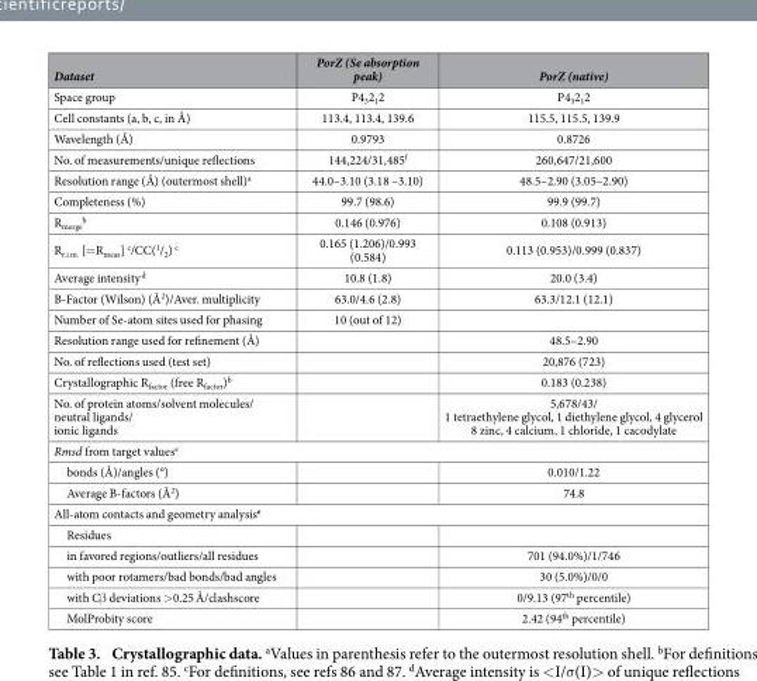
<table><thead><tr><td>Dataset</td><td>PorZ (Se absorption peak)</td><td>PorZ (native)</td></tr></thead><tbody><tr><td>Space group</td><td>P4<sub>3</sub>2<sub>1</sub>2</td><td>P4<sub>3</sub>2<sub>1</sub>2</td></tr><tr><td>Cell constants (a, b, c, in Å)</td><td>113.4, 113.4, 139.6</td><td>115.5, 115.5, 139.9</td></tr><tr><td>Wavelength (Å)</td><td>0.9793</td><td>0.8726</td></tr><tr><td>No. of measurements/unique reflections</td><td>144,224/31,485<sup>f</sup></td><td>260,647/21,600</td></tr><tr><td>Resolution range (Å) (outermost shell)<sup>a</sup></td><td>44.0–3.10 (3.18 –3.10)</td><td>48.5–2.90 (3.05–2.90)</td></tr><tr><td>Completeness (%)</td><td>99.7 (98.6)</td><td>99.9 (99.7)</td></tr><tr><td>R<sub>merge</sub> <sup>b</sup></td><td>0.146 (0.976)</td><td>0.108 (0.913)</td></tr><tr><td>R<sub>r.i.m.</sub> [= R<sub>meas</sub>] c/CC(<sup>1</sup>/<sub>2</sub>) c</td><td>0.165 (1.206)/0.993 (0.584)</td><td>0.113 (0.953)/0.999 (0.837)</td></tr><tr><td>Average intensity d</td><td>10.8 (1.8)</td><td>20.0 (3.4)</td></tr><tr><td>B-Factor (Wilson) (Å<sup>2</sup>)/Aver. multiplicity</td><td>63.0/4.6 (2.8)</td><td>63.3/12.1 (12.1)</td></tr><tr><td>Number of Se-atom sites used for phasing</td><td>10 (out of 12)</td><td></td></tr><tr><td>Resolution range used for refinement (Å)</td><td></td><td>48.5–2.90</td></tr><tr><td>No. of reflections used (test set)</td><td></td><td>20,876 (723)</td></tr><tr><td>Crystallographic R<sub>factor</sub> (free R<sub>factor</sub>)<sup>b</sup></td><td></td><td>0.183 (0.238)</td></tr><tr><td>No. of protein atoms/solvent molecules/ neutral ligands/ ionic ligands</td><td></td><td>5,678/43/ 1 tetraethylene glycol, 1 diethylene glycol, 4 glycerol 8 zinc, 4 calcium, 1 chloride, 1 cacodylate</td></tr><tr><td colspan="3">Rmsd from target values<sup>e</sup></td></tr><tr><td>bonds (Å)/angles (°)</td><td></td><td>0.010/1.22</td></tr><tr><td>Average B-factors (Å<sup>2</sup>)</td><td></td><td>74.8</td></tr><tr><td colspan="3">All-atom contacts and geometry analysis<sup>e</sup></td></tr><tr><td colspan="3">Residues</td></tr><tr><td>in favored regions/outliers/all residues</td><td></td><td>701 (94.0%)/1/746</td></tr><tr><td>with poor rotamers/bad bonds/bad angles</td><td></td><td>30 (5.0%)/0/0</td></tr><tr><td>with Cβ deviations &gt; 0.25 Å/clashscore</td><td></td><td>0/9.13 (97<sup>th</sup> percentile)</td></tr><tr><td>MolProbity score</td><td></td><td>2.42 (94<sup>th</sup> percentile)</td></tr></tbody></table>